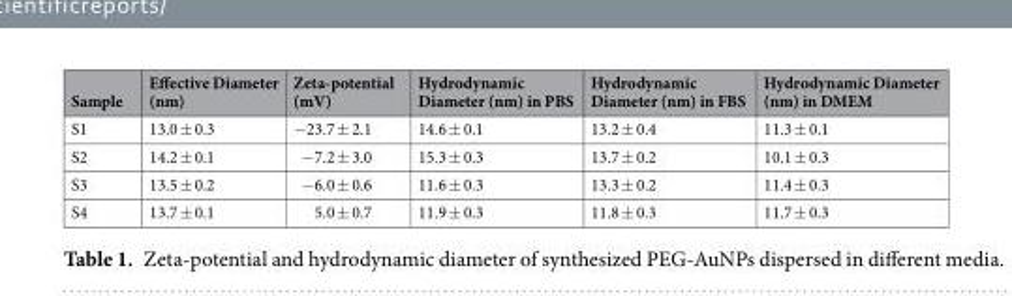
<table><thead><tr><td>Sample</td><td>Effective Diameter (nm)</td><td>Zeta-potential (mV)</td><td>Hydrodynamic Diameter (nm) in PBS</td><td>Hydrodynamic Diameter (nm) in FBS</td><td>Hydrodynamic Diameter (nm) in DMEM</td></tr></thead><tbody><tr><td>S1</td><td>13.0 ± 0.3</td><td>−23.7 ± 2.1</td><td>14.6 ± 0.1</td><td>13.2 ± 0.4</td><td>11.3 ± 0.1</td></tr><tr><td>S2</td><td>14.2 ± 0.1</td><td>−7.2 ± 3.0</td><td>15.3 ± 0.3</td><td>13.7 ± 0.2</td><td>10.1 ± 0.3</td></tr><tr><td>S3</td><td>13.5 ± 0.2</td><td>−6.0 ± 0.6</td><td>11.6 ± 0.3</td><td>13.3 ± 0.2</td><td>11.4 ± 0.3</td></tr><tr><td>S4</td><td>13.7 ± 0.1</td><td>5.0 ± 0.7</td><td>11.9 ± 0.3</td><td>11.8 ± 0.3</td><td>11.7 ± 0.3</td></tr></tbody></table>